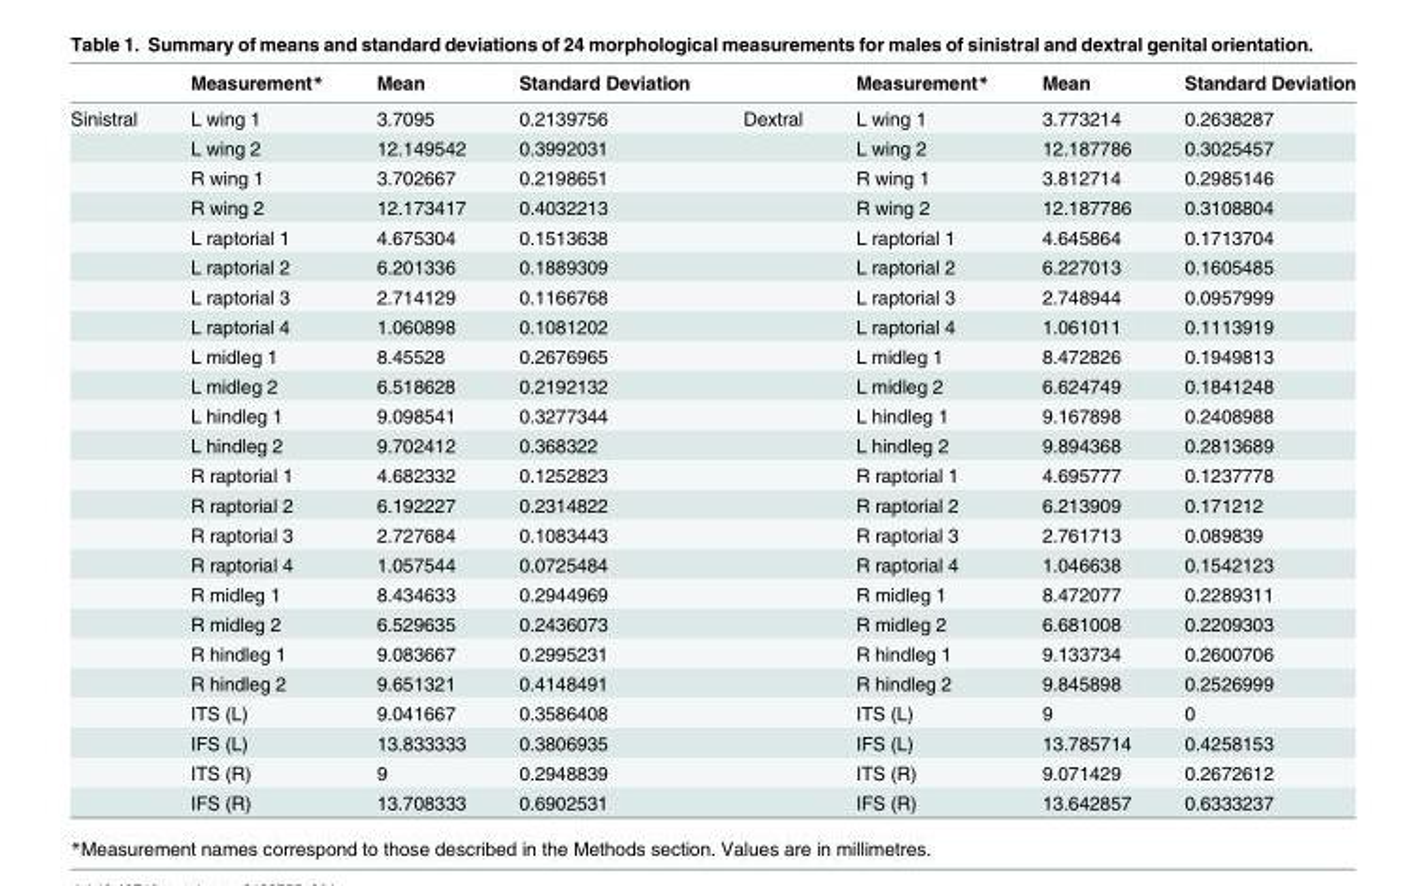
<table><thead><tr><td></td><td>Measurement*</td><td>Mean</td><td>Standard Deviation</td><td></td><td>Measurement*</td><td>Mean</td><td>Standard Deviation</td></tr></thead><tbody><tr><td rowspan="24">Sinistral</td><td>L wing 1</td><td>3.7095</td><td>0.2139756</td><td>Dextral</td><td>L wing 1</td><td>3.773214</td><td>0.2638287</td></tr><tr><td>L wing 2</td><td>12.149542</td><td>0.3992031</td><td></td><td>L wing 2</td><td>12.187786</td><td>0.3025457</td></tr><tr><td>R wing 1</td><td>3.702667</td><td>0.2198651</td><td></td><td>R wing 1</td><td>3.812714</td><td>0.2985146</td></tr><tr><td>R wing 2</td><td>12.173417</td><td>0.4032213</td><td></td><td>R wing 2</td><td>12.187786</td><td>0.3108804</td></tr><tr><td>L raptorial 1</td><td>4.675304</td><td>0.1513638</td><td></td><td>L raptorial 1</td><td>4.645864</td><td>0.1713704</td></tr><tr><td>L raptorial 2</td><td>6.201336</td><td>0.1889309</td><td></td><td>L raptorial 2</td><td>6.227013</td><td>0.1605485</td></tr><tr><td>L raptorial 3</td><td>2.714129</td><td>0.1166768</td><td></td><td>L raptorial 3</td><td>2.748944</td><td>0.0957999</td></tr><tr><td>L raptorial 4</td><td>1.060898</td><td>0.1081202</td><td></td><td>L raptorial 4</td><td>1.061011</td><td>0.1113919</td></tr><tr><td>L midleg 1</td><td>8.45528</td><td>0.2676965</td><td></td><td>L midleg 1</td><td>8.472826</td><td>0.1949813</td></tr><tr><td>L midleg 2</td><td>6.518628</td><td>0.2192132</td><td></td><td>L midleg 2</td><td>6.624749</td><td>0.1841248</td></tr><tr><td>L hindleg 1</td><td>9.098541</td><td>0.3277344</td><td></td><td>L hindleg 1</td><td>9.167898</td><td>0.2408988</td></tr><tr><td>L hindleg 2</td><td>9.702412</td><td>0.368322</td><td></td><td>L hindleg 2</td><td>9.894368</td><td>0.2813689</td></tr><tr><td>R raptorial 1</td><td>4.682332</td><td>0.1252823</td><td></td><td>R raptorial 1</td><td>4.695777</td><td>0.1237778</td></tr><tr><td>R raptorial 2</td><td>6.192227</td><td>0.2314822</td><td></td><td>R raptorial 2</td><td>6.213909</td><td>0.171212</td></tr><tr><td>R raptorial 3</td><td>2.727684</td><td>0.1083443</td><td></td><td>R raptorial 3</td><td>2.761713</td><td>0.089839</td></tr><tr><td>R raptorial 4</td><td>1.057544</td><td>0.0725484</td><td></td><td>R raptorial 4</td><td>1.046638</td><td>0.1542123</td></tr><tr><td>R midleg 1</td><td>8.434633</td><td>0.2944969</td><td></td><td>R midleg 1</td><td>8.472077</td><td>0.2289311</td></tr><tr><td>R midleg 2</td><td>6.529635</td><td>0.2436073</td><td></td><td>R midleg 2</td><td>6.681008</td><td>0.2209303</td></tr><tr><td>R hindleg 1</td><td>9.083667</td><td>0.2995231</td><td></td><td>R hindleg 1</td><td>9.133734</td><td>0.2600706</td></tr><tr><td>R hindleg 2</td><td>9.651321</td><td>0.4148491</td><td></td><td>R hindleg 2</td><td>9.845898</td><td>0.2526999</td></tr><tr><td>ITS (L)</td><td>9.041667</td><td>0.3586408</td><td></td><td>ITS (L)</td><td>9</td><td>0</td></tr><tr><td>IFS (L)</td><td>13.833333</td><td>0.3806935</td><td></td><td>IFS (L)</td><td>13.785714</td><td>0.4258153</td></tr><tr><td>ITS (R)</td><td>9</td><td>0.2948839</td><td></td><td>ITS (R)</td><td>9.071429</td><td>0.2672612</td></tr><tr><td>IFS (R)</td><td>13.708333</td><td>0.6902531</td><td></td><td>IFS (R)</td><td>13.642857</td><td>0.6333237</td></tr></tbody></table>